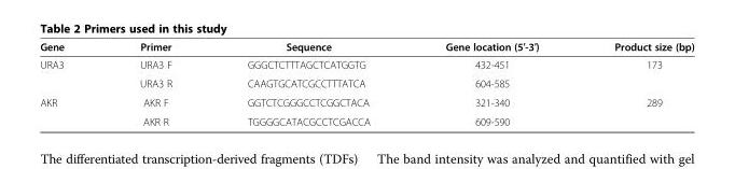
<table><thead><tr><td>Gene</td><td>Primer</td><td>Sequence</td><td>Gene location (5′-3′)</td><td>Product size (bp)</td></tr></thead><tbody><tr><td rowspan="2">URA3</td><td>URA3 F</td><td>GGGCTCTTTAGCTCATGGTG</td><td>432-451</td><td rowspan="2">173</td></tr><tr><td>URA3 R</td><td>CAAGTGCATCGCCTTTATCA</td><td>604-585</td></tr><tr><td rowspan="2">AKR</td><td>AKR F</td><td>GGTCTCGGGCCTCGGCTACA</td><td>321-340</td><td rowspan="2">289</td></tr><tr><td>AKR R</td><td>TGGGGCATACGCCTCGACCA</td><td>609-590</td></tr></tbody></table>